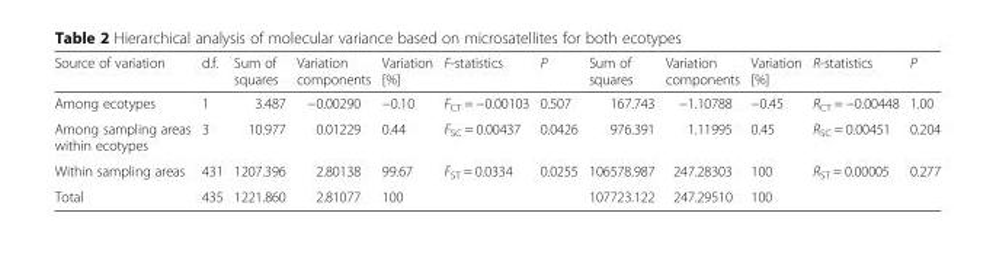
<table><thead><tr><td>Source of variation</td><td>d.f.</td><td>Sum of squares</td><td>Variation components</td><td>Variation [%]</td><td>F-statistics</td><td>P</td><td>Sum of squares</td><td>Variation components</td><td>Variation [%]</td><td>R-statistics</td><td>P</td></tr></thead><tbody><tr><td>Among ecotypes</td><td>1</td><td>3.487</td><td>−0.00290</td><td>−0.10</td><td>F<sub>CT</sub> = −0.00103</td><td>0.507</td><td>167.743</td><td>−1.10788</td><td>−0.45</td><td>R<sub>CT</sub> = −0.00448</td><td>1.00</td></tr><tr><td>Among sampling areas within ecotypes</td><td>3</td><td>10.977</td><td>0.01229</td><td>0.44</td><td>F<sub>SC</sub> = 0.00437</td><td>0.0426</td><td>976.391</td><td>1.11995</td><td>0.45</td><td>R<sub>SC</sub> = 0.00451</td><td>0.204</td></tr><tr><td>Within sampling areas</td><td>431</td><td>1207.396</td><td>2.80138</td><td>99.67</td><td>F<sub>ST</sub> = 0.0334</td><td>0.0255</td><td>106578.987</td><td>247.28303</td><td>100</td><td>R<sub>ST</sub> = 0.00005</td><td>0.277</td></tr><tr><td>Total</td><td>435</td><td>1221.860</td><td>2.81077</td><td>100</td><td></td><td></td><td>107723.122</td><td>247.29510</td><td>100</td><td></td><td></td></tr></tbody></table>